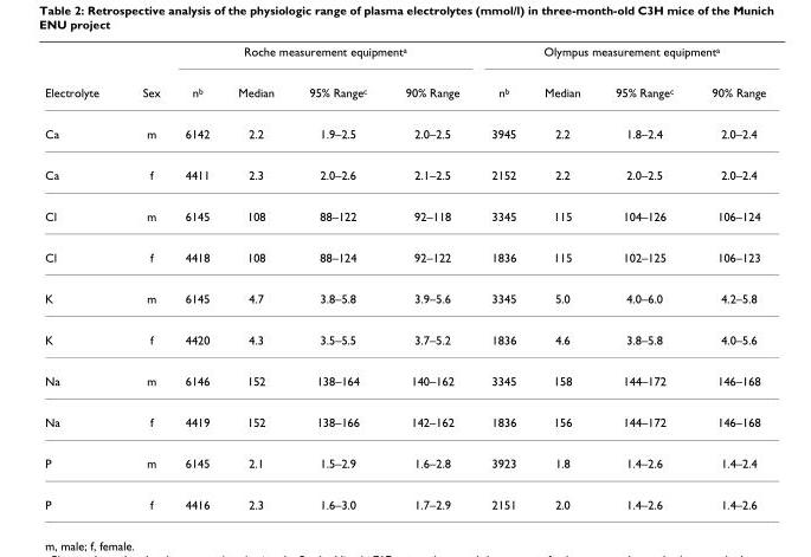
<table><thead><tr><td rowspan="2">Electrolyte</td><td rowspan="2">Sex</td><td colspan="4">Roche measurement equipment<sup>a</sup></td><td colspan="4">Olympus measurement equipment<sup>a</sup></td></tr><tr><td>n<sup>b</sup></td><td>Median</td><td>95% Range<sup>c</sup></td><td>90% Range</td><td>n<sup>b</sup></td><td>Median</td><td>95% Range<sup>c</sup></td><td>90% Range</td></tr></thead><tbody><tr><td>Ca</td><td>m</td><td>6142</td><td>2.2</td><td>1.9–2.5</td><td>2.0–2.5</td><td>3945</td><td>2.2</td><td>1.8–2.4</td><td>2.0–2.4</td></tr><tr><td>Ca</td><td>f</td><td>4411</td><td>2.3</td><td>2.0–2.6</td><td>2.1–2.5</td><td>2152</td><td>2.2</td><td>2.0–2.5</td><td>2.0–2.4</td></tr><tr><td>Cl</td><td>m</td><td>6145</td><td>108</td><td>88–122</td><td>92–118</td><td>3345</td><td>115</td><td>104–126</td><td>106–124</td></tr><tr><td>Cl</td><td>f</td><td>4418</td><td>108</td><td>88–124</td><td>92–122</td><td>1836</td><td>115</td><td>102–125</td><td>106–123</td></tr><tr><td>K</td><td>m</td><td>6145</td><td>4.7</td><td>3.8–5.8</td><td>3.9–5.6</td><td>3345</td><td>5.0</td><td>4.0–6.0</td><td>4.2–5.8</td></tr><tr><td>K</td><td>f</td><td>4420</td><td>4.3</td><td>3.5–5.5</td><td>3.7–5.2</td><td>1836</td><td>4.6</td><td>3.8–5.8</td><td>4.0–5.6</td></tr><tr><td>Na</td><td>m</td><td>6146</td><td>152</td><td>138–164</td><td>140–162</td><td>3345</td><td>158</td><td>144–172</td><td>146–168</td></tr><tr><td>Na</td><td>f</td><td>4419</td><td>152</td><td>138–166</td><td>142–162</td><td>1836</td><td>156</td><td>144–172</td><td>146–168</td></tr><tr><td>P</td><td>m</td><td>6145</td><td>2.1</td><td>1.5–2.9</td><td>1.6–2.8</td><td>3923</td><td>1.8</td><td>1.4–2.6</td><td>1.4–2.4</td></tr><tr><td>P</td><td>f</td><td>4416</td><td>2.3</td><td>1.6–3.0</td><td>1.7–2.9</td><td>2151</td><td>2.0</td><td>1.4–2.6</td><td>1.4–2.6</td></tr></tbody></table>